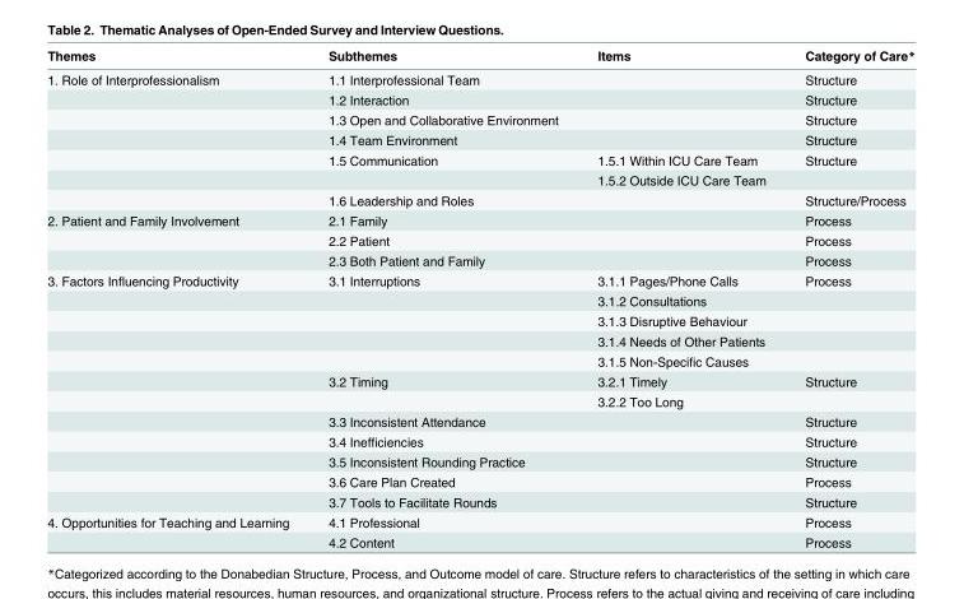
<table><thead><tr><td>Themes</td><td>Subthemes</td><td>Items</td><td>Category of Care*</td></tr></thead><tbody><tr><td rowspan="7">1. Role of Interprofessionalism</td><td>1.1 Interprofessional Team</td><td></td><td>Structure</td></tr><tr><td>1.2 Interaction</td><td></td><td>Structure</td></tr><tr><td>1.3 Open and Collaborative Environment</td><td></td><td>Structure</td></tr><tr><td>1.4 Team Environment</td><td></td><td>Structure</td></tr><tr><td>1.5 Communication</td><td>1.5.1 Within ICU Care Team</td><td>Structure</td></tr><tr><td></td><td>1.5.2 Outside ICU Care Team</td><td></td></tr><tr><td>1.6 Leadership and Roles</td><td></td><td>Structure/Process</td></tr><tr><td rowspan="3">2. Patient and Family Involvement</td><td>2.1 Family</td><td></td><td>Process</td></tr><tr><td>2.2 Patient</td><td></td><td>Process</td></tr><tr><td>2.3 Both Patient and Family</td><td></td><td>Process</td></tr><tr><td rowspan="12">3. Factors Influencing Productivity</td><td>3.1 Interruptions</td><td>3.1.1 Pages/Phone Calls</td><td>Process</td></tr><tr><td></td><td>3.1.2 Consultations</td><td></td></tr><tr><td></td><td>3.1.3 Disruptive Behaviour</td><td></td></tr><tr><td></td><td>3.1.4 Needs of Other Patients</td><td></td></tr><tr><td></td><td>3.1.5 Non-Specific Causes</td><td></td></tr><tr><td>3.2 Timing</td><td>3.2.1 Timely</td><td>Structure</td></tr><tr><td></td><td>3.2.2 Too Long</td><td></td></tr><tr><td>3.3 Inconsistent Attendance</td><td></td><td>Structure</td></tr><tr><td>3.4 Inefficiencies</td><td></td><td>Structure</td></tr><tr><td>3.5 Inconsistent Rounding Practice</td><td></td><td>Structure</td></tr><tr><td>3.6 Care Plan Created</td><td></td><td>Process</td></tr><tr><td>3.7 Tools to Facilitate Rounds</td><td></td><td>Structure</td></tr><tr><td rowspan="2">4. Opportunities for Teaching and Learning</td><td>4.1 Professional</td><td></td><td>Process</td></tr><tr><td>4.2 Content</td><td></td><td>Process</td></tr></tbody></table>